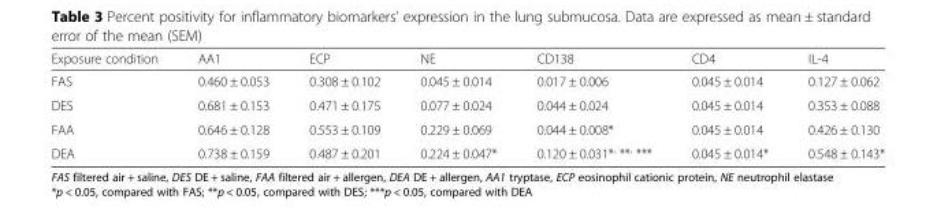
<table><thead><tr><td>Exposure condition</td><td>AA1</td><td>ECP</td><td>NE</td><td>CD138</td><td>CD4</td><td>IL-4</td></tr></thead><tbody><tr><td>FAS</td><td>0.460 ± 0.053</td><td>0.308 ± 0.102</td><td>0.045 ± 0.014</td><td>0.017 ± 0.006</td><td>0.045 ± 0.014</td><td>0.127 ± 0.062</td></tr><tr><td>DES</td><td>0.681 ± 0.153</td><td>0.471 ± 0.175</td><td>0.077 ± 0.024</td><td>0.044 ± 0.024</td><td>0.045 ± 0.014</td><td>0.353 ± 0.088</td></tr><tr><td>FAA</td><td>0.646 ± 0.128</td><td>0.553 ± 0.109</td><td>0.229 ± 0.069</td><td>0.044 ± 0.008*</td><td>0.045 ± 0.014</td><td>0.426 ± 0.130</td></tr><tr><td>DEA</td><td>0.738 ± 0.159</td><td>0.487 ± 0.201</td><td>0.224 ± 0.047*</td><td>0.120 ± 0.031*<sup>,</sup> **<sup>,</sup> ***</td><td>0.045 ± 0.014*</td><td>0.548 ± 0.143*</td></tr></tbody></table>